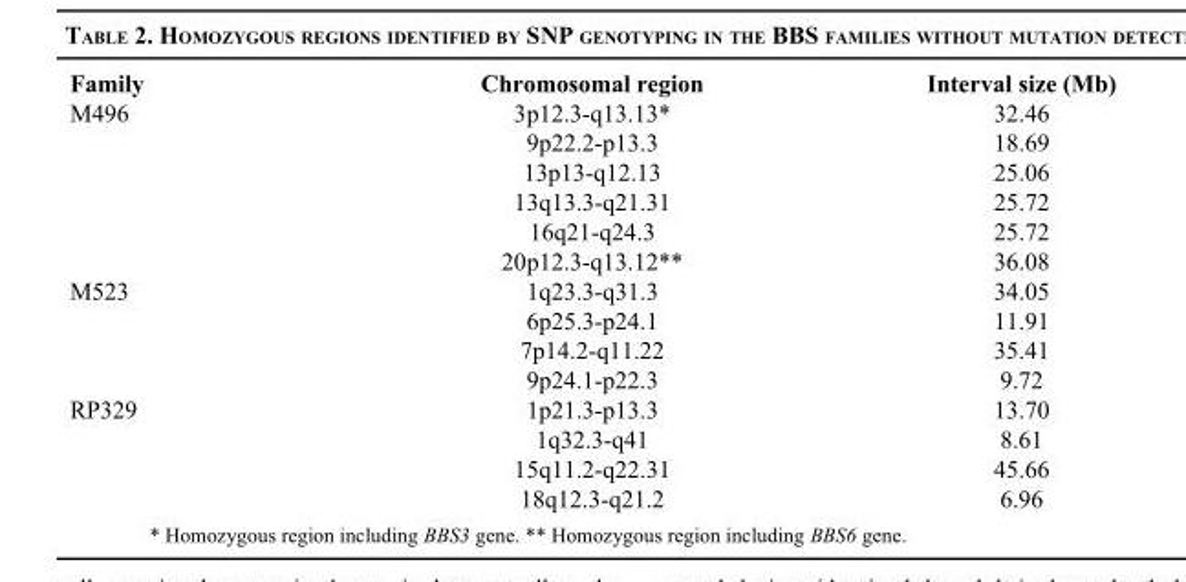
<table><thead><tr><td>Family</td><td>Chromosomal region</td><td>Interval size (Mb)</td></tr></thead><tbody><tr><td rowspan="6">M496</td><td>3p12.3-q13.13*</td><td>32.46</td></tr><tr><td>9p22.2-p13.3</td><td>18.69</td></tr><tr><td>13p13-q12.13</td><td>25.06</td></tr><tr><td>13q13.3-q21.31</td><td>25.72</td></tr><tr><td>16q21-q24.3</td><td>25.72</td></tr><tr><td>20p12.3-q13.12**</td><td>36.08</td></tr><tr><td rowspan="4">M523</td><td>1q23.3-q31.3</td><td>34.05</td></tr><tr><td>6p25.3-p24.1</td><td>11.91</td></tr><tr><td>7p14.2-q11.22</td><td>35.41</td></tr><tr><td>9p24.1-p22.3</td><td>9.72</td></tr><tr><td rowspan="4">RP329</td><td>1p21.3-p13.3</td><td>13.70</td></tr><tr><td>1q32.3-q41</td><td>8.61</td></tr><tr><td>15q11.2-q22.31</td><td>45.66</td></tr><tr><td>18q12.3-q21.2</td><td>6.96</td></tr></tbody></table>